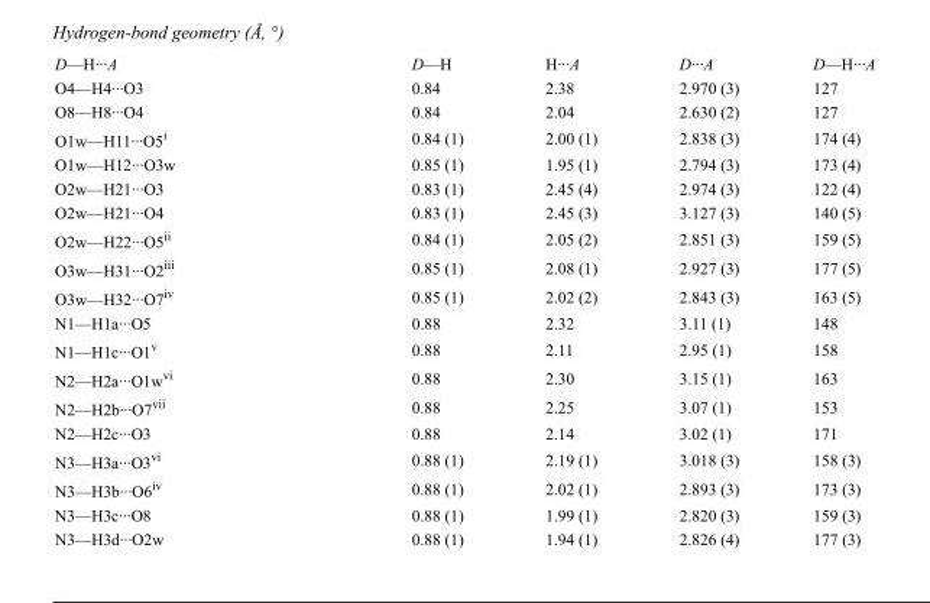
<table><tbody><tr><td>D—H···A</td><td>D—H</td><td>H···A</td><td>D···A</td><td>D—H···A</td></tr><tr><td>O4—H4···O3</td><td>0.84</td><td>2.38</td><td>2.970 (3)</td><td>127</td></tr><tr><td>O8—H8···O4</td><td>0.84</td><td>2.04</td><td>2.630 (2)</td><td>127</td></tr><tr><td>O1w—H11···O5<sup>i</sup></td><td>0.84 (1)</td><td>2.00 (1)</td><td>2.838 (3)</td><td>174 (4)</td></tr><tr><td>O1w—H12···O3w</td><td>0.85 (1)</td><td>1.95 (1)</td><td>2.794 (3)</td><td>173 (4)</td></tr><tr><td>O2w—H21···O3</td><td>0.83 (1)</td><td>2.45 (4)</td><td>2.974 (3)</td><td>122 (4)</td></tr><tr><td>O2w—H21···O4</td><td>0.83 (1)</td><td>2.45 (3)</td><td>3.127 (3)</td><td>140 (5)</td></tr><tr><td>O2w—H22···O5<sup>ii</sup></td><td>0.84 (1)</td><td>2.05 (2)</td><td>2.851 (3)</td><td>159 (5)</td></tr><tr><td>O3w—H31···O2<sup>iii</sup></td><td>0.85 (1)</td><td>2.08 (1)</td><td>2.927 (3)</td><td>177 (5)</td></tr><tr><td>O3w—H32···O7<sup>iv</sup></td><td>0.85 (1)</td><td>2.02 (2)</td><td>2.843 (3)</td><td>163 (5)</td></tr><tr><td>N1—H1a···O5</td><td>0.88</td><td>2.32</td><td>3.11 (1)</td><td>148</td></tr><tr><td>N1—H1c···O1<sup>v</sup></td><td>0.88</td><td>2.11</td><td>2.95 (1)</td><td>158</td></tr><tr><td>N2—H2a···O1w<sup>vi</sup></td><td>0.88</td><td>2.30</td><td>3.15 (1)</td><td>163</td></tr><tr><td>N2—H2b···O7<sup>vii</sup></td><td>0.88</td><td>2.25</td><td>3.07 (1)</td><td>153</td></tr><tr><td>N2—H2c···O3</td><td>0.88</td><td>2.14</td><td>3.02 (1)</td><td>171</td></tr><tr><td>N3—H3a···O3<sup>vi</sup></td><td>0.88 (1)</td><td>2.19 (1)</td><td>3.018 (3)</td><td>158 (3)</td></tr><tr><td>N3—H3b···O6<sup>iv</sup></td><td>0.88 (1)</td><td>2.02 (1)</td><td>2.893 (3)</td><td>173 (3)</td></tr><tr><td>N3—H3c···O8</td><td>0.88 (1)</td><td>1.99 (1)</td><td>2.820 (3)</td><td>159 (3)</td></tr><tr><td>N3—H3d···O2w</td><td>0.88 (1)</td><td>1.94 (1)</td><td>2.826 (4)</td><td>177 (3)</td></tr></tbody></table>